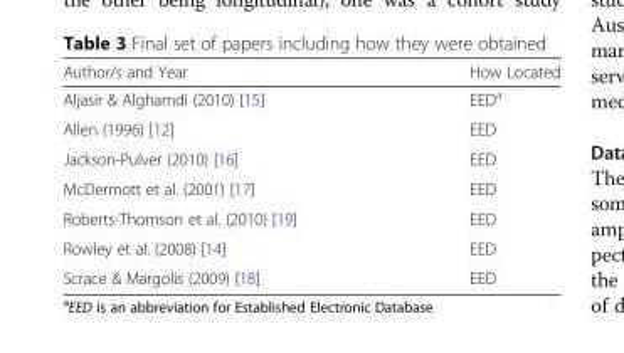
<table><thead><tr><td>Author/s and Year</td><td>How Located</td></tr></thead><tbody><tr><td>Aljasir &amp; Alghamdi (2010) [15]</td><td>EED<sup>a</sup></td></tr><tr><td>Allen (1996) [12]</td><td>EED</td></tr><tr><td>Jackson-Pulver (2010) [16]</td><td>EED</td></tr><tr><td>McDermott et al. (2001) [17]</td><td>EED</td></tr><tr><td>Roberts-Thomson et al. (2010) [19]</td><td>EED</td></tr><tr><td>Rowley et al. (2008) [14]</td><td>EED</td></tr><tr><td>Scrace &amp; Margolis (2009) [18]</td><td>EED</td></tr></tbody></table>